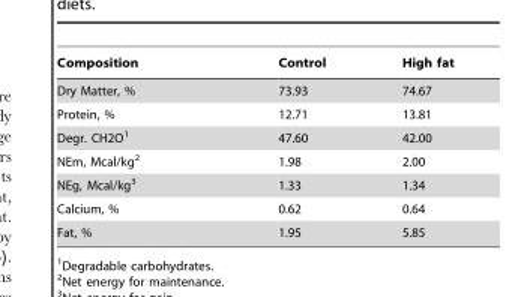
<table><thead><tr><td>Composition</td><td>Control</td><td>High fat</td></tr></thead><tbody><tr><td>Dry Matter, %</td><td>73.93</td><td>74.67</td></tr><tr><td>Protein, %</td><td>12.71</td><td>13.81</td></tr><tr><td>Degr. CH2O<sup>1</sup></td><td>47.60</td><td>42.00</td></tr><tr><td>NEm, Mcal/kg<sup>2</sup></td><td>1.98</td><td>2.00</td></tr><tr><td>NEg, Mcal/kg<sup>3</sup></td><td>1.33</td><td>1.34</td></tr><tr><td>Calcium, %</td><td>0.62</td><td>0.64</td></tr><tr><td>Fat, %</td><td>1.95</td><td>5.85</td></tr></tbody></table>